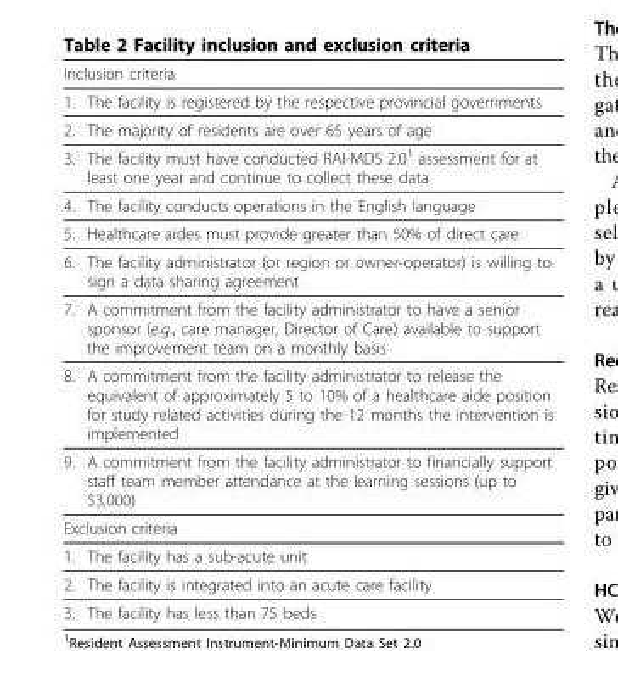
<table><thead><tr><td colspan="2">Inclusion criteria</td></tr><tr><td>1.</td><td>The facility is registered by the respective provincial governments</td></tr></thead><tbody><tr><td>2.</td><td>The majority of residents are over 65 years of age</td></tr><tr><td>3.</td><td>The facility must have conducted RAI-MDS 2.0<sup>1</sup> assessment for at least one year and continue to collect these data</td></tr><tr><td>4.</td><td>The facility conducts operations in the English language</td></tr><tr><td>5.</td><td>Healthcare aides must provide greater than 50% of direct care</td></tr><tr><td>6.</td><td>The facility administrator (or region or owner-operator) is willing to sign a data sharing agreement</td></tr><tr><td>7.</td><td>A commitment from the facility administrator to have a senior sponsor (e.g., care manager, Director of Care) available to support the improvement team on a monthly basis</td></tr><tr><td>8.</td><td>A commitment from the facility administrator to release the equivalent of approximately 5 to 10% of a healthcare aide position for study related activities during the 12 months the intervention is implemented</td></tr><tr><td>9.</td><td>A commitment from the facility administrator to financially support staff team member attendance at the learning sessions (up to $3,000)</td></tr><tr><td colspan="2">Exclusion criteria</td></tr><tr><td>1.</td><td>The facility has a sub-acute unit</td></tr><tr><td>2.</td><td>The facility is integrated into an acute care facility</td></tr><tr><td>3.</td><td>The facility has less than 75 beds</td></tr></tbody></table>